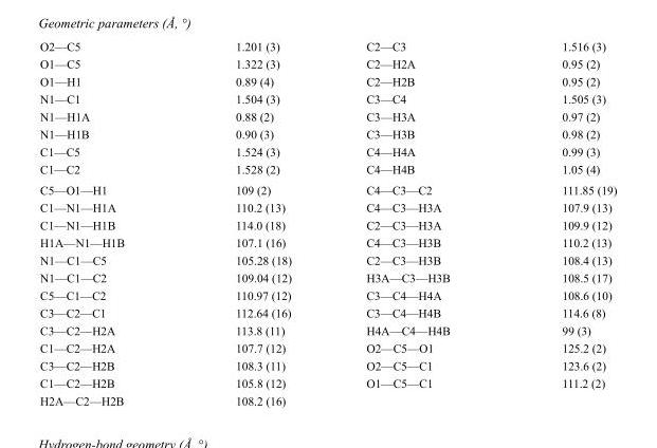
<table><tbody><tr><td>O2—C5</td><td>1.201 (3)</td><td>C2—C3</td><td>1.516 (3)</td></tr><tr><td>O1—C5</td><td>1.322 (3)</td><td>C2—H2A</td><td>0.95 (2)</td></tr><tr><td>O1—H1</td><td>0.89 (4)</td><td>C2—H2B</td><td>0.95 (2)</td></tr><tr><td>N1—C1</td><td>1.504 (3)</td><td>C3—C4</td><td>1.505 (3)</td></tr><tr><td>N1—H1A</td><td>0.88 (2)</td><td>C3—H3A</td><td>0.97 (2)</td></tr><tr><td>N1—H1B</td><td>0.90 (3)</td><td>C3—H3B</td><td>0.98 (2)</td></tr><tr><td>C1—C5</td><td>1.524 (3)</td><td>C4—H4A</td><td>0.99 (3)</td></tr><tr><td>C1—C2</td><td>1.528 (2)</td><td>C4—H4B</td><td>1.05 (4)</td></tr><tr><td>C5—O1—H1</td><td>109 (2)</td><td>C4—C3—C2</td><td>111.85 (19)</td></tr><tr><td>C1—N1—H1A</td><td>110.2 (13)</td><td>C4—C3—H3A</td><td>107.9 (13)</td></tr><tr><td>C1—N1—H1B</td><td>114.0 (18)</td><td>C2—C3—H3A</td><td>109.9 (12)</td></tr><tr><td>H1A—N1—H1B</td><td>107.1 (16)</td><td>C4—C3—H3B</td><td>110.2 (13)</td></tr><tr><td>N1—C1—C5</td><td>105.28 (18)</td><td>C2—C3—H3B</td><td>108.4 (13)</td></tr><tr><td>N1—C1—C2</td><td>109.04 (12)</td><td>H3A—C3—H3B</td><td>108.5 (17)</td></tr><tr><td>C5—C1—C2</td><td>110.97 (12)</td><td>C3—C4—H4A</td><td>108.6 (10)</td></tr><tr><td>C3—C2—C1</td><td>112.64 (16)</td><td>C3—C4—H4B</td><td>114.6 (8)</td></tr><tr><td>C3—C2—H2A</td><td>113.8 (11)</td><td>H4A—C4—H4B</td><td>99 (3)</td></tr><tr><td>C1—C2—H2A</td><td>107.7 (12)</td><td>O2—C5—O1</td><td>125.2 (2)</td></tr><tr><td>C3—C2—H2B</td><td>108.3 (11)</td><td>O2—C5—C1</td><td>123.6 (2)</td></tr><tr><td>C1—C2—H2B</td><td>105.8 (12)</td><td>O1—C5—C1</td><td>111.2 (2)</td></tr><tr><td>H2A—C2—H2B</td><td>108.2 (16)</td><td></td><td></td></tr></tbody></table>